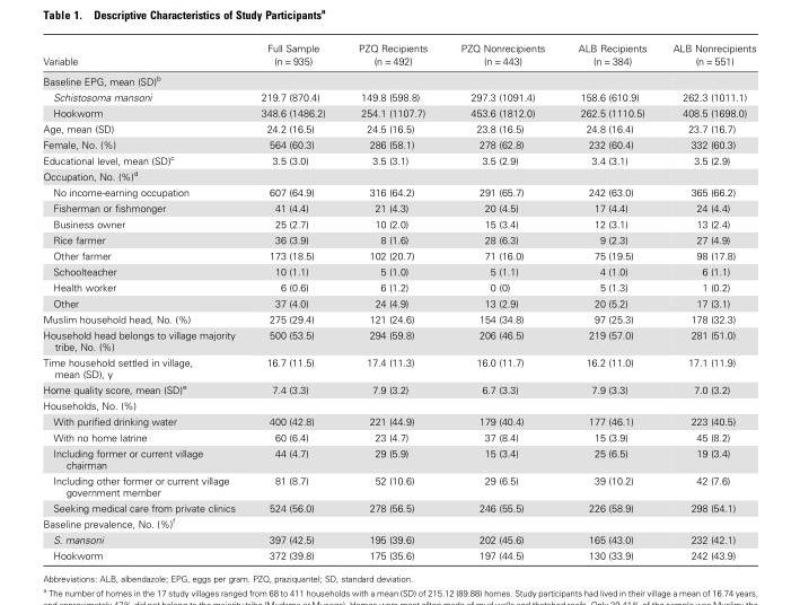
<table><thead><tr><td>Variable</td><td>Full Sample (n = 935)</td><td>PZQ Recipients (n = 492)</td><td>PZQ Nonrecipients (n = 443)</td><td>ALB Recipients (n = 384)</td><td>ALB Nonrecipients (n = 551)</td></tr></thead><tbody><tr><td colspan="6">Baseline EPG, mean (SD)<sup>b</sup></td></tr><tr><td>Schistosoma mansoni</td><td>219.7 (870.4)</td><td>149.8 (598.8)</td><td>297.3 (1091.4)</td><td>158.6 (610.9)</td><td>262.3 (1011.1)</td></tr><tr><td>Hookworm</td><td>348.6 (1486.2)</td><td>254.1 (1107.7)</td><td>453.6 (1812.0)</td><td>262.5 (1110.5)</td><td>408.5 (1698.0)</td></tr><tr><td>Age, mean (SD)</td><td>24.2 (16.5)</td><td>24.5 (16.5)</td><td>23.8 (16.5)</td><td>24.8 (16.4)</td><td>23.7 (16.7)</td></tr><tr><td>Female, No. (%)</td><td>564 (60.3)</td><td>286 (58.1)</td><td>278 (62.8)</td><td>232 (60.4)</td><td>332 (60.3)</td></tr><tr><td>Educational level, mean (SD)<sup>c</sup></td><td>3.5 (3.0)</td><td>3.5 (3.1)</td><td>3.5 (2.9)</td><td>3.4 (3.1)</td><td>3.5 (2.9)</td></tr><tr><td colspan="6">Occupation, No. (%)<sup>d</sup></td></tr><tr><td>No income-earning occupation</td><td>607 (64.9)</td><td>316 (64.2)</td><td>291 (65.7)</td><td>242 (63.0)</td><td>365 (66.2)</td></tr><tr><td>Fisherman or fishmonger</td><td>41 (4.4)</td><td>21 (4.3)</td><td>20 (4.5)</td><td>17 (4.4)</td><td>24 (4.4)</td></tr><tr><td>Business owner</td><td>25 (2.7)</td><td>10 (2.0)</td><td>15 (3.4)</td><td>12 (3.1)</td><td>13 (2.4)</td></tr><tr><td>Rice farmer</td><td>36 (3.9)</td><td>8 (1.6)</td><td>28 (6.3)</td><td>9 (2.3)</td><td>27 (4.9)</td></tr><tr><td>Other farmer</td><td>173 (18.5)</td><td>102 (20.7)</td><td>71 (16.0)</td><td>75 (19.5)</td><td>98 (17.8)</td></tr><tr><td>Schoolteacher</td><td>10 (1.1)</td><td>5 (1.0)</td><td>5 (1.1)</td><td>4 (1.0)</td><td>6 (1.1)</td></tr><tr><td>Health worker</td><td>6 (0.6)</td><td>6 (1.2)</td><td>0 (0)</td><td>5 (1.3)</td><td>1 (0.2)</td></tr><tr><td>Other</td><td>37 (4.0)</td><td>24 (4.9)</td><td>13 (2.9)</td><td>20 (5.2)</td><td>17 (3.1)</td></tr><tr><td>Muslim household head, No. (%)</td><td>275 (29.4)</td><td>121 (24.6)</td><td>154 (34.8)</td><td>97 (25.3)</td><td>178 (32.3)</td></tr><tr><td>Household head belongs to village majority tribe, No. (%)</td><td>500 (53.5)</td><td>294 (59.8)</td><td>206 (46.5)</td><td>219 (57.0)</td><td>281 (51.0)</td></tr><tr><td>Time household settled in village, mean (SD), y</td><td>16.7 (11.5)</td><td>17.4 (11.3)</td><td>16.0 (11.7)</td><td>16.2 (11.0)</td><td>17.1 (11.9)</td></tr><tr><td>Home quality score, mean (SD)<sup>e</sup></td><td>7.4 (3.3)</td><td>7.9 (3.2)</td><td>6.7 (3.3)</td><td>7.9 (3.3)</td><td>7.0 (3.2)</td></tr><tr><td colspan="6">Households, No. (%)</td></tr><tr><td>With purified drinking water</td><td>400 (42.8)</td><td>221 (44.9)</td><td>179 (40.4)</td><td>177 (46.1)</td><td>223 (40.5)</td></tr><tr><td>With no home latrine</td><td>60 (6.4)</td><td>23 (4.7)</td><td>37 (8.4)</td><td>15 (3.9)</td><td>45 (8.2)</td></tr><tr><td>Including former or current village chairman</td><td>44 (4.7)</td><td>29 (5.9)</td><td>15 (3.4)</td><td>25 (6.5)</td><td>19 (3.4)</td></tr><tr><td>Including other former or current village government member</td><td>81 (8.7)</td><td>52 (10.6)</td><td>29 (6.5)</td><td>39 (10.2)</td><td>42 (7.6)</td></tr><tr><td>Seeking medical care from private clinics</td><td>524 (56.0)</td><td>278 (56.5)</td><td>246 (55.5)</td><td>226 (58.9)</td><td>298 (54.1)</td></tr><tr><td colspan="6">Baseline prevalence, No. (%)<sup>f</sup></td></tr><tr><td>S. mansoni</td><td>397 (42.5)</td><td>195 (39.6)</td><td>202 (45.6)</td><td>165 (43.0)</td><td>232 (42.1)</td></tr><tr><td>Hookworm</td><td>372 (39.8)</td><td>175 (35.6)</td><td>197 (44.5)</td><td>130 (33.9)</td><td>242 (43.9)</td></tr></tbody></table>